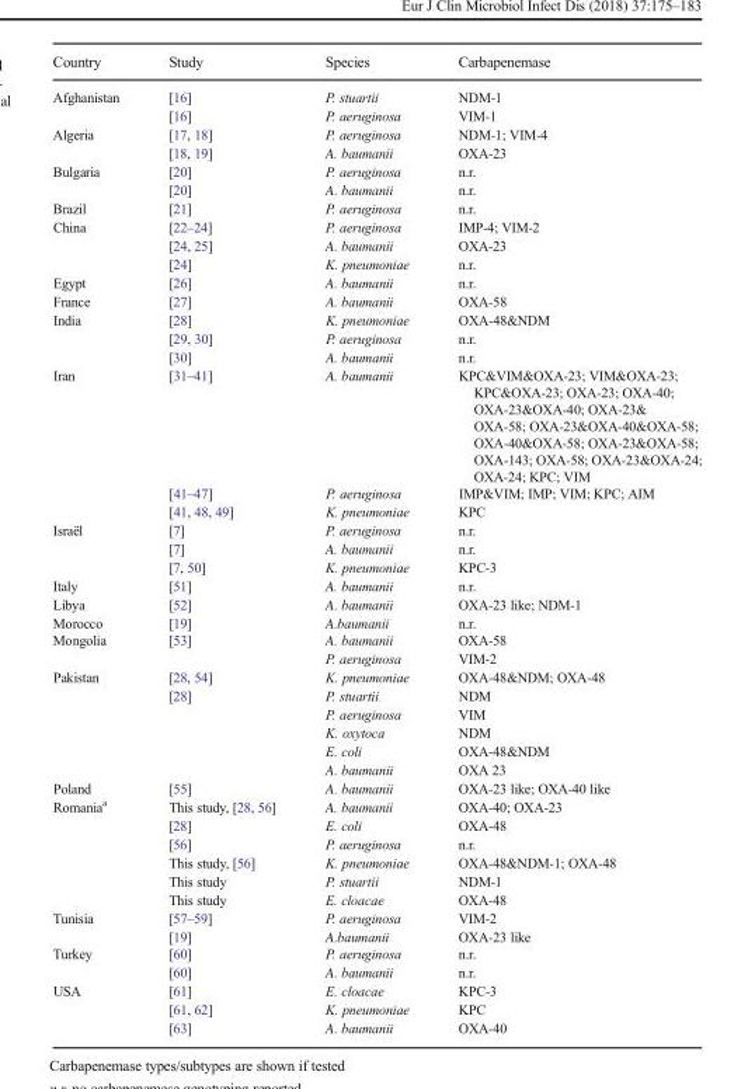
<table><thead><tr><td>Country</td><td>Study</td><td>Species</td><td>Carbapenemase</td></tr></thead><tbody><tr><td rowspan="2">Afghanistan</td><td>[16]</td><td>P. stuartii</td><td>NDM-1</td></tr><tr><td>[16]</td><td>P. aeruginosa</td><td>VIM-1</td></tr><tr><td rowspan="2">Algeria</td><td>[17, 18]</td><td>P. aeruginosa</td><td>NDM-1; VIM-4</td></tr><tr><td>[18, 19]</td><td>A. baumanii</td><td>OXA-23</td></tr><tr><td rowspan="2">Bulgaria</td><td>[20]</td><td>P. aeruginosa</td><td>n.r.</td></tr><tr><td>[20]</td><td>A. baumanii</td><td>n.r.</td></tr><tr><td>Brazil</td><td>[21]</td><td>P. aeruginosa</td><td>n.r.</td></tr><tr><td rowspan="3">China</td><td>[22–24]</td><td>P. aeruginosa</td><td>IMP-4; VIM-2</td></tr><tr><td>[24, 25]</td><td>A. baumanii</td><td>OXA-23</td></tr><tr><td>[24]</td><td>K. pneumoniae</td><td>n.r.</td></tr><tr><td>Egypt</td><td>[26]</td><td>A. baumanii</td><td>n.r.</td></tr><tr><td>France</td><td>[27]</td><td>A. baumanii</td><td>OXA-58</td></tr><tr><td rowspan="3">India</td><td>[28]</td><td>K. pneumoniae</td><td>OXA-48&amp;NDM</td></tr><tr><td>[29, 30]</td><td>P. aeruginosa</td><td>n.r.</td></tr><tr><td>[30]</td><td>A. baumanii</td><td>n.r.</td></tr><tr><td rowspan="3">Iran</td><td>[31–41]</td><td>A. baumanii</td><td>KPC&amp;VIM&amp;OXA-23; VIM&amp;OXA-23; KPC&amp;OXA-23; OXA-23; OXA-40; OXA-23&amp;OXA-40; OXA-23&amp; OXA-58; OXA-23&amp;OXA-40&amp;OXA-58; OXA-40&amp;OXA-58; OXA-23&amp;OXA-58; OXA-143; OXA-58; OXA-23&amp;OXA-24; OXA-24; KPC; VIM</td></tr><tr><td>[41–47]</td><td>P. aeruginosa</td><td>IMP&amp;VIM; IMP; VIM; KPC; AIM</td></tr><tr><td>[41, 48, 49]</td><td>K. pneumoniae</td><td>KPC</td></tr><tr><td rowspan="3">Israël</td><td>[7]</td><td>P. aeruginosa</td><td>n.r.</td></tr><tr><td>[7]</td><td>A. baumanii</td><td>n.r.</td></tr><tr><td>[7, 50]</td><td>K. pneumoniae</td><td>KPC-3</td></tr><tr><td>Italy</td><td>[51]</td><td>A. baumanii</td><td>n.r.</td></tr><tr><td>Libya</td><td>[52]</td><td>A. baumanii</td><td>OXA-23 like; NDM-1</td></tr><tr><td>Morocco</td><td>[19]</td><td>A.baumanii</td><td>n.r.</td></tr><tr><td rowspan="2">Mongolia</td><td rowspan="2">[53]</td><td>A. baumanii</td><td>OXA-58</td></tr><tr><td>P. aeruginosa</td><td>VIM-2</td></tr><tr><td rowspan="6">Pakistan</td><td>[28, 54]</td><td>K. pneumoniae</td><td>OXA-48&amp;NDM; OXA-48</td></tr><tr><td rowspan="5">[28]</td><td>P. stuartii</td><td>NDM</td></tr><tr><td>P. aeruginosa</td><td>VIM</td></tr><tr><td>K. oxytoca</td><td>NDM</td></tr><tr><td>E. coli</td><td>OXA-48&amp;NDM</td></tr><tr><td>A. baumanii</td><td>OXA 23</td></tr><tr><td>Poland</td><td>[55]</td><td>A. baumanii</td><td>OXA-23 like; OXA-40 like</td></tr><tr><td rowspan="6">Romania<sup>a</sup></td><td>This study, [28, 56]</td><td>A. baumanii</td><td>OXA-40; OXA-23</td></tr><tr><td>[28]</td><td>E. coli</td><td>OXA-48</td></tr><tr><td>[56]</td><td>P. aeruginosa</td><td>n.r.</td></tr><tr><td>This study, [56]</td><td>K. pneumoniae</td><td>OXA-48&amp;NDM-1; OXA-48</td></tr><tr><td>This study</td><td>P. stuartii</td><td>NDM-1</td></tr><tr><td>This study</td><td>E. cloacae</td><td>OXA-48</td></tr><tr><td rowspan="2">Tunisia</td><td>[57–59]</td><td>P. aeruginosa</td><td>VIM-2</td></tr><tr><td>[19]</td><td>A.baumanii</td><td>OXA-23 like</td></tr><tr><td rowspan="2">Turkey</td><td>[60]</td><td>P. aeruginosa</td><td>n.r.</td></tr><tr><td>[60]</td><td>A. baumanii</td><td>n.r.</td></tr><tr><td rowspan="3">USA</td><td>[61]</td><td>E. cloacae</td><td>KPC-3</td></tr><tr><td>[61, 62]</td><td>K. pneumoniae</td><td>KPC</td></tr><tr><td>[63]</td><td>A. baumanii</td><td>OXA-40</td></tr></tbody></table>